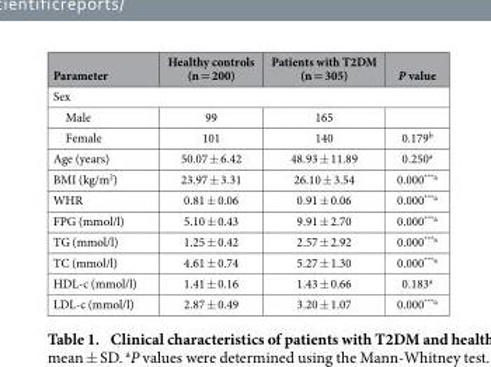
<table><thead><tr><td>Parameter</td><td>Healthy controls (n = 200)</td><td>Patients with T2DM (n = 305)</td><td>P value</td></tr></thead><tbody><tr><td colspan="4">Sex</td></tr><tr><td>Male</td><td>99</td><td>165</td><td></td></tr><tr><td>Female</td><td>101</td><td>140</td><td>0.179<sup>b</sup></td></tr><tr><td>Age (years)</td><td>50.07 ± 6.42</td><td>48.93 ± 11.89</td><td>0.250<sup>a</sup></td></tr><tr><td>BMI (kg/m<sup>2</sup>)</td><td>23.97 ± 3.31</td><td>26.10 ± 3.54</td><td>0.000<sup>***a</sup></td></tr><tr><td>WHR</td><td>0.81 ± 0.06</td><td>0.91 ± 0.06</td><td>0.000<sup>***a</sup></td></tr><tr><td>FPG (mmol/l)</td><td>5.10 ± 0.43</td><td>9.91 ± 2.70</td><td>0.000<sup>***a</sup></td></tr><tr><td>TG (mmol/l)</td><td>1.25 ± 0.42</td><td>2.57 ± 2.92</td><td>0.000<sup>***a</sup></td></tr><tr><td>TC (mmol/l)</td><td>4.61 ± 0.74</td><td>5.27 ± 1.30</td><td>0.000<sup>***a</sup></td></tr><tr><td>HDL-c (mmol/l)</td><td>1.41 ± 0.16</td><td>1.43 ± 0.66</td><td>0.183<sup>a</sup></td></tr><tr><td>LDL-c (mmol/l)</td><td>2.87 ± 0.49</td><td>3.20 ± 1.07</td><td>0.000<sup>***a</sup></td></tr></tbody></table>